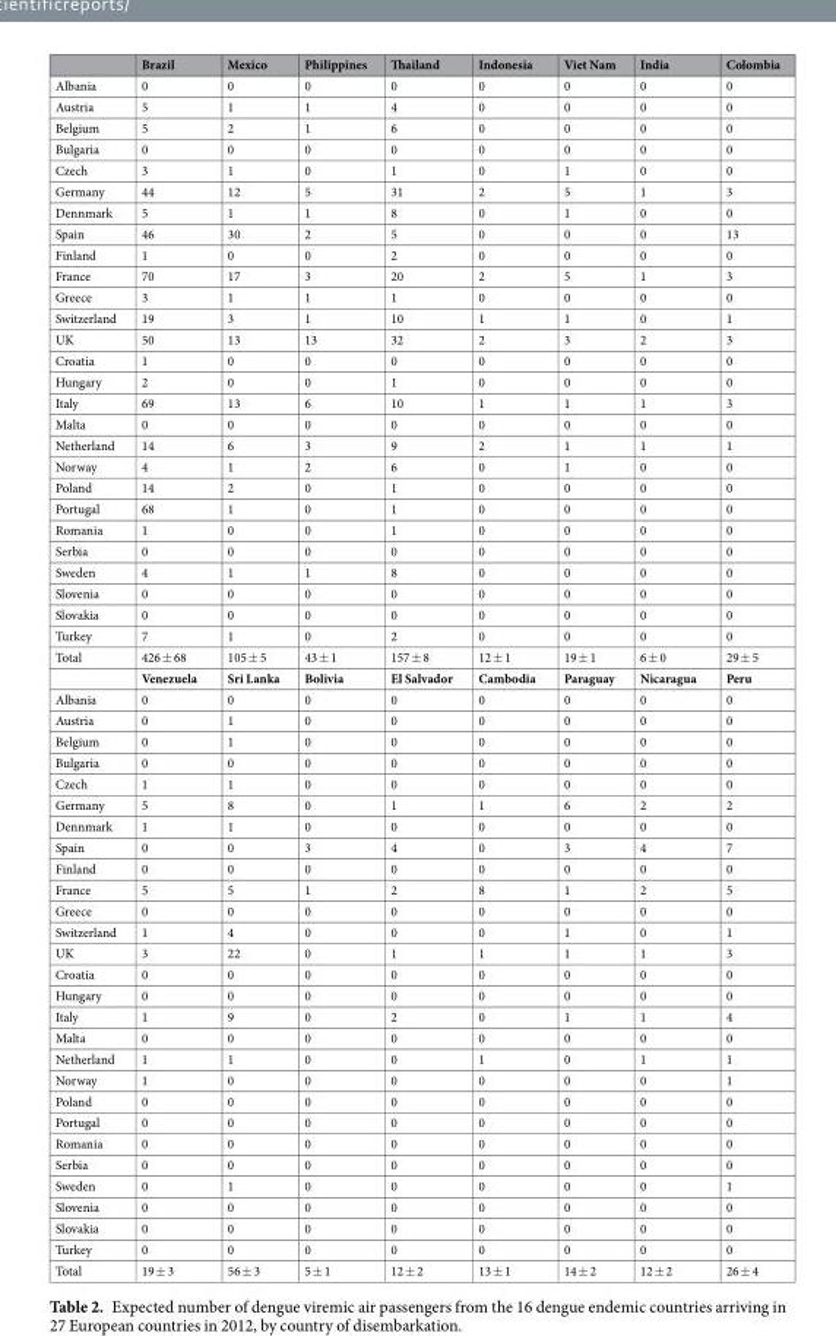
<table><thead><tr><td></td><td>Brazil</td><td>Mexico</td><td>Philippines</td><td>Thailand</td><td>Indonesia</td><td>Viet Nam</td><td>India</td><td>Colombia</td></tr></thead><tbody><tr><td>Albania</td><td>0</td><td>0</td><td>0</td><td>0</td><td>0</td><td>0</td><td>0</td><td>0</td></tr><tr><td>Austria</td><td>5</td><td>1</td><td>1</td><td>4</td><td>0</td><td>0</td><td>0</td><td>0</td></tr><tr><td>Belgium</td><td>5</td><td>2</td><td>1</td><td>6</td><td>0</td><td>0</td><td>0</td><td>0</td></tr><tr><td>Bulgaria</td><td>0</td><td>0</td><td>0</td><td>0</td><td>0</td><td>0</td><td>0</td><td>0</td></tr><tr><td>Czech</td><td>3</td><td>1</td><td>0</td><td>1</td><td>0</td><td>1</td><td>0</td><td>0</td></tr><tr><td>Germany</td><td>44</td><td>12</td><td>5</td><td>31</td><td>2</td><td>5</td><td>1</td><td>3</td></tr><tr><td>Dennmark</td><td>5</td><td>1</td><td>1</td><td>8</td><td>0</td><td>1</td><td>0</td><td>0</td></tr><tr><td>Spain</td><td>46</td><td>30</td><td>2</td><td>5</td><td>0</td><td>0</td><td>0</td><td>13</td></tr><tr><td>Finland</td><td>1</td><td>0</td><td>0</td><td>2</td><td>0</td><td>0</td><td>0</td><td>0</td></tr><tr><td>France</td><td>70</td><td>17</td><td>3</td><td>20</td><td>2</td><td>5</td><td>1</td><td>3</td></tr><tr><td>Greece</td><td>3</td><td>1</td><td>1</td><td>1</td><td>0</td><td>0</td><td>0</td><td>0</td></tr><tr><td>Switzerland</td><td>19</td><td>3</td><td>1</td><td>10</td><td>1</td><td>1</td><td>0</td><td>1</td></tr><tr><td>UK</td><td>50</td><td>13</td><td>13</td><td>32</td><td>2</td><td>3</td><td>2</td><td>3</td></tr><tr><td>Croatia</td><td>1</td><td>0</td><td>0</td><td>0</td><td>0</td><td>0</td><td>0</td><td>0</td></tr><tr><td>Hungary</td><td>2</td><td>0</td><td>0</td><td>1</td><td>0</td><td>0</td><td>0</td><td>0</td></tr><tr><td>Italy</td><td>69</td><td>13</td><td>6</td><td>10</td><td>1</td><td>1</td><td>1</td><td>3</td></tr><tr><td>Malta</td><td>0</td><td>0</td><td>0</td><td>0</td><td>0</td><td>0</td><td>0</td><td>0</td></tr><tr><td>Netherland</td><td>14</td><td>6</td><td>3</td><td>9</td><td>2</td><td>1</td><td>1</td><td>1</td></tr><tr><td>Norway</td><td>4</td><td>1</td><td>2</td><td>6</td><td>0</td><td>1</td><td>0</td><td>0</td></tr><tr><td>Poland</td><td>14</td><td>2</td><td>0</td><td>1</td><td>0</td><td>0</td><td>0</td><td>0</td></tr><tr><td>Portugal</td><td>68</td><td>1</td><td>0</td><td>1</td><td>0</td><td>0</td><td>0</td><td>0</td></tr><tr><td>Romania</td><td>1</td><td>0</td><td>0</td><td>1</td><td>0</td><td>0</td><td>0</td><td>0</td></tr><tr><td>Serbia</td><td>0</td><td>0</td><td>0</td><td>0</td><td>0</td><td>0</td><td>0</td><td>0</td></tr><tr><td>Sweden</td><td>4</td><td>1</td><td>1</td><td>8</td><td>0</td><td>0</td><td>0</td><td>0</td></tr><tr><td>Slovenia</td><td>0</td><td>0</td><td>0</td><td>0</td><td>0</td><td>0</td><td>0</td><td>0</td></tr><tr><td>Slovakia</td><td>0</td><td>0</td><td>0</td><td>0</td><td>0</td><td>0</td><td>0</td><td>0</td></tr><tr><td>Turkey</td><td>7</td><td>1</td><td>0</td><td>2</td><td>0</td><td>0</td><td>0</td><td>0</td></tr><tr><td rowspan="2">Total</td><td>426 ± 68</td><td>105 ± 5</td><td>43 ± 1</td><td>157 ± 8</td><td>12 ± 1</td><td>19 ± 1</td><td>6 ± 0</td><td>29 ± 5</td></tr><tr><td>Venezuela</td><td>Sri Lanka</td><td>Bolivia</td><td>El Salvador</td><td>Cambodia</td><td>Paraguay</td><td>Nicaragua</td><td>Peru</td></tr><tr><td>Albania</td><td>0</td><td>0</td><td>0</td><td>0</td><td>0</td><td>0</td><td>0</td><td>0</td></tr><tr><td>Austria</td><td>0</td><td>1</td><td>0</td><td>0</td><td>0</td><td>0</td><td>0</td><td>0</td></tr><tr><td>Belgium</td><td>0</td><td>1</td><td>0</td><td>0</td><td>0</td><td>0</td><td>0</td><td>0</td></tr><tr><td>Bulgaria</td><td>0</td><td>0</td><td>0</td><td>0</td><td>0</td><td>0</td><td>0</td><td>0</td></tr><tr><td>Czech</td><td>1</td><td>1</td><td>0</td><td>0</td><td>0</td><td>0</td><td>0</td><td>0</td></tr><tr><td>Germany</td><td>5</td><td>8</td><td>0</td><td>1</td><td>1</td><td>6</td><td>2</td><td>2</td></tr><tr><td>Dennmark</td><td>1</td><td>1</td><td>0</td><td>0</td><td>0</td><td>0</td><td>0</td><td>0</td></tr><tr><td>Spain</td><td>0</td><td>0</td><td>3</td><td>4</td><td>0</td><td>3</td><td>4</td><td>7</td></tr><tr><td>Finland</td><td>0</td><td>0</td><td>0</td><td>0</td><td>0</td><td>0</td><td>0</td><td>0</td></tr><tr><td>France</td><td>5</td><td>5</td><td>1</td><td>2</td><td>8</td><td>1</td><td>2</td><td>5</td></tr><tr><td>Greece</td><td>0</td><td>0</td><td>0</td><td>0</td><td>0</td><td>0</td><td>0</td><td>0</td></tr><tr><td>Switzerland</td><td>1</td><td>4</td><td>0</td><td>0</td><td>0</td><td>1</td><td>0</td><td>1</td></tr><tr><td>UK</td><td>3</td><td>22</td><td>0</td><td>1</td><td>1</td><td>1</td><td>1</td><td>3</td></tr><tr><td>Croatia</td><td>0</td><td>0</td><td>0</td><td>0</td><td>0</td><td>0</td><td>0</td><td>0</td></tr><tr><td>Hungary</td><td>0</td><td>0</td><td>0</td><td>0</td><td>0</td><td>0</td><td>0</td><td>0</td></tr><tr><td>Italy</td><td>1</td><td>9</td><td>0</td><td>2</td><td>0</td><td>1</td><td>1</td><td>4</td></tr><tr><td>Malta</td><td>0</td><td>0</td><td>0</td><td>0</td><td>0</td><td>0</td><td>0</td><td>0</td></tr><tr><td>Netherland</td><td>1</td><td>1</td><td>0</td><td>0</td><td>1</td><td>0</td><td>1</td><td>1</td></tr><tr><td>Norway</td><td>1</td><td>0</td><td>0</td><td>0</td><td>0</td><td>0</td><td>0</td><td>1</td></tr><tr><td>Poland</td><td>0</td><td>0</td><td>0</td><td>0</td><td>0</td><td>0</td><td>0</td><td>0</td></tr><tr><td>Portugal</td><td>0</td><td>0</td><td>0</td><td>0</td><td>0</td><td>0</td><td>0</td><td>0</td></tr><tr><td>Romania</td><td>0</td><td>0</td><td>0</td><td>0</td><td>0</td><td>0</td><td>0</td><td>0</td></tr><tr><td>Serbia</td><td>0</td><td>0</td><td>0</td><td>0</td><td>0</td><td>0</td><td>0</td><td>0</td></tr><tr><td>Sweden</td><td>0</td><td>1</td><td>0</td><td>0</td><td>0</td><td>0</td><td>0</td><td>1</td></tr><tr><td>Slovenia</td><td>0</td><td>0</td><td>0</td><td>0</td><td>0</td><td>0</td><td>0</td><td>0</td></tr><tr><td>Slovakia</td><td>0</td><td>0</td><td>0</td><td>0</td><td>0</td><td>0</td><td>0</td><td>0</td></tr><tr><td>Turkey</td><td>0</td><td>0</td><td>0</td><td>0</td><td>0</td><td>0</td><td>0</td><td>0</td></tr><tr><td>Total</td><td>19 ± 3</td><td>56 ± 3</td><td>5 ± 1</td><td>12 ± 2</td><td>13 ± 1</td><td>14 ± 2</td><td>12 ± 2</td><td>26 ± 4</td></tr></tbody></table>